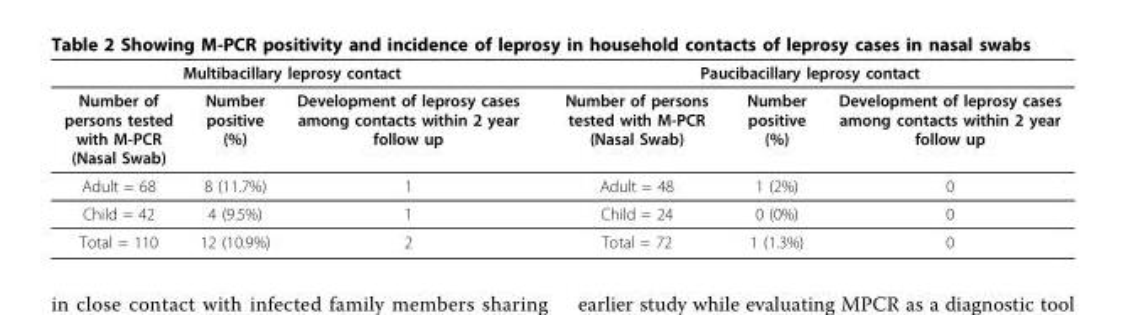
<table><thead><tr><td colspan="3">Multibacillary leprosy contact</td><td colspan="3">Paucibacillary leprosy contact</td></tr><tr><td>Number of persons tested with M-PCR (Nasal Swab)</td><td>Number positive (%)</td><td>Development of leprosy cases among contacts within 2 year follow up</td><td>Number of persons tested with M-PCR (Nasal Swab)</td><td>Number positive (%)</td><td>Development of leprosy cases among contacts within 2 year follow up</td></tr></thead><tbody><tr><td>Adult = 68</td><td>8 (11.7%)</td><td>1</td><td>Adult = 48</td><td>1 (2%)</td><td>0</td></tr><tr><td>Child = 42</td><td>4 (9.5%)</td><td>1</td><td>Child = 24</td><td>0 (0%)</td><td>0</td></tr><tr><td>Total = 110</td><td>12 (10.9%)</td><td>2</td><td>Total = 72</td><td>1 (1.3%)</td><td>0</td></tr></tbody></table>